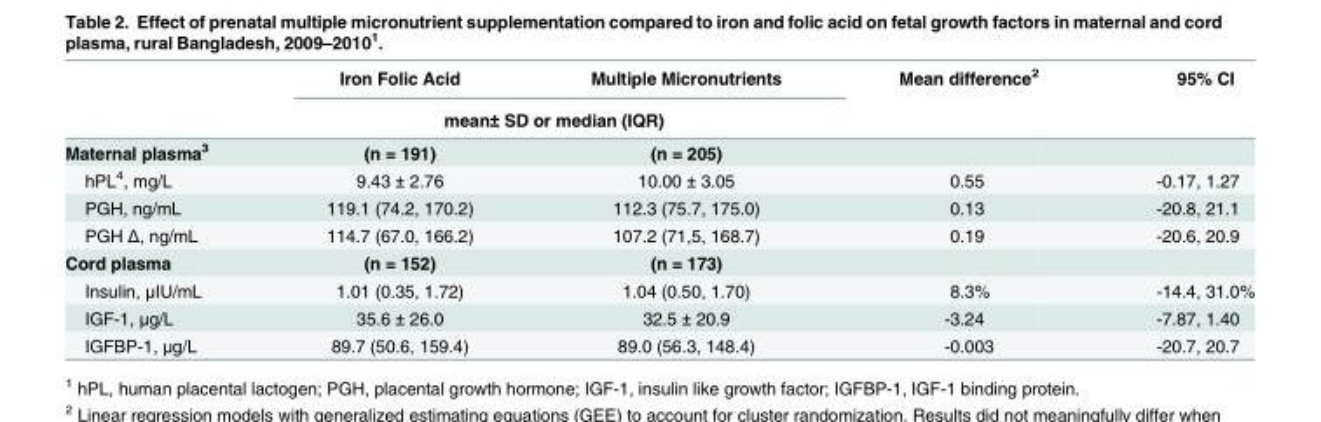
<table><thead><tr><td rowspan="2"></td><td>Iron Folic Acid</td><td>Multiple Micronutrients</td><td rowspan="2">Mean difference<sup>2</sup></td><td rowspan="2">95% CI</td></tr><tr><td colspan="2">mean± SD or median (IQR)</td></tr></thead><tbody><tr><td>Maternal plasma<sup>3</sup></td><td>(n = 191)</td><td>(n = 205)</td><td></td><td></td></tr><tr><td>hPL<sup>4</sup>, mg/L</td><td>9.43 ± 2.76</td><td>10.00 ± 3.05</td><td>0.55</td><td>-0.17, 1.27</td></tr><tr><td>PGH, ng/mL</td><td>119.1 (74.2, 170.2)</td><td>112.3 (75.7, 175.0)</td><td>0.13</td><td>-20.8, 21.1</td></tr><tr><td>PGH Δ, ng/mL</td><td>114.7 (67.0, 166.2)</td><td>107.2 (71,5, 168.7)</td><td>0.19</td><td>-20.6, 20.9</td></tr><tr><td>Cord plasma</td><td>(n = 152)</td><td>(n = 173)</td><td></td><td></td></tr><tr><td>Insulin, μIU/mL</td><td>1.01 (0.35, 1.72)</td><td>1.04 (0.50, 1.70)</td><td>8.3%</td><td>-14.4, 31.0%</td></tr><tr><td>IGF-1, μg/L</td><td>35.6 ± 26.0</td><td>32.5 ± 20.9</td><td>-3.24</td><td>-7.87, 1.40</td></tr><tr><td>IGFBP-1, μg/L</td><td>89.7 (50.6, 159.4)</td><td>89.0 (56.3, 148.4)</td><td>-0.003</td><td>-20.7, 20.7</td></tr></tbody></table>